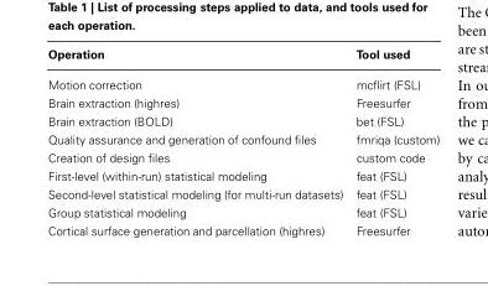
<table><thead><tr><td>Operation</td><td>Tool used</td></tr></thead><tbody><tr><td>Motion correction</td><td>mcflirt (FSL)</td></tr><tr><td>Brain extraction (highres)</td><td>Freesurfer</td></tr><tr><td>Brain extraction (BOLD)</td><td>bet (FSL)</td></tr><tr><td>Quality assurance and generation of confound files</td><td>fmriqa (custom)</td></tr><tr><td>Creation of design files</td><td>custom code</td></tr><tr><td>First-level (within-run) statistical modeling</td><td>feat (FSL)</td></tr><tr><td>Second-level statistical modeling (for multi-run datasets)</td><td>feat (FSL)</td></tr><tr><td>Group statistical modeling</td><td>feat (FSL)</td></tr><tr><td>Cortical surface generation and parcellation (highres)</td><td>Freesurfer</td></tr></tbody></table>